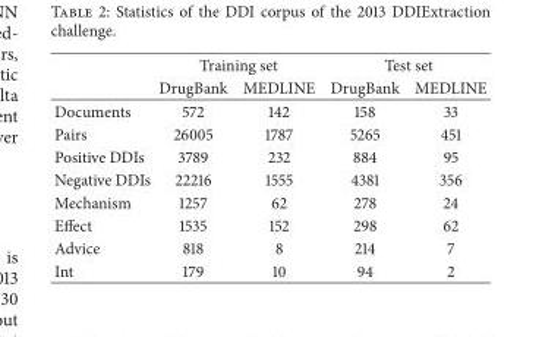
<table><thead><tr><td rowspan="2"></td><td colspan="2">Training set</td><td colspan="2">Test set</td></tr><tr><td>DrugBank</td><td>MEDLINE</td><td>DrugBank</td><td>MEDLINE</td></tr></thead><tbody><tr><td>Documents</td><td>572</td><td>142</td><td>158</td><td>33</td></tr><tr><td>Pairs</td><td>26005</td><td>1787</td><td>5265</td><td>451</td></tr><tr><td>Positive DDIs</td><td>3789</td><td>232</td><td>884</td><td>95</td></tr><tr><td>Negative DDIs</td><td>22216</td><td>1555</td><td>4381</td><td>356</td></tr><tr><td>Mechanism</td><td>1257</td><td>62</td><td>278</td><td>24</td></tr><tr><td>Effect</td><td>1535</td><td>152</td><td>298</td><td>62</td></tr><tr><td>Advice</td><td>818</td><td>8</td><td>214</td><td>7</td></tr><tr><td>Int</td><td>179</td><td>10</td><td>94</td><td>2</td></tr></tbody></table>